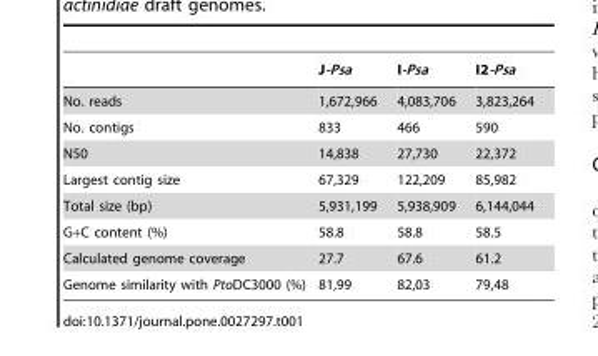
<table><thead><tr><td></td><td>J-Psa</td><td>I-Psa</td><td>I2-Psa</td></tr></thead><tbody><tr><td>No. reads</td><td>1,672,966</td><td>4,083,706</td><td>3,823,264</td></tr><tr><td>No. contigs</td><td>833</td><td>466</td><td>590</td></tr><tr><td>N50</td><td>14,838</td><td>27,730</td><td>22,372</td></tr><tr><td>Largest contig size</td><td>67,329</td><td>122,209</td><td>85,982</td></tr><tr><td>Total size (bp)</td><td>5,931,199</td><td>5,938,909</td><td>6,144,044</td></tr><tr><td>G+C content (%)</td><td>58.8</td><td>58.8</td><td>58.5</td></tr><tr><td>Calculated genome coverage</td><td>27.7</td><td>67.6</td><td>61.2</td></tr><tr><td>Genome similarity with PtoDC3000 (%)</td><td>81,99</td><td>82,03</td><td>79,48</td></tr></tbody></table>